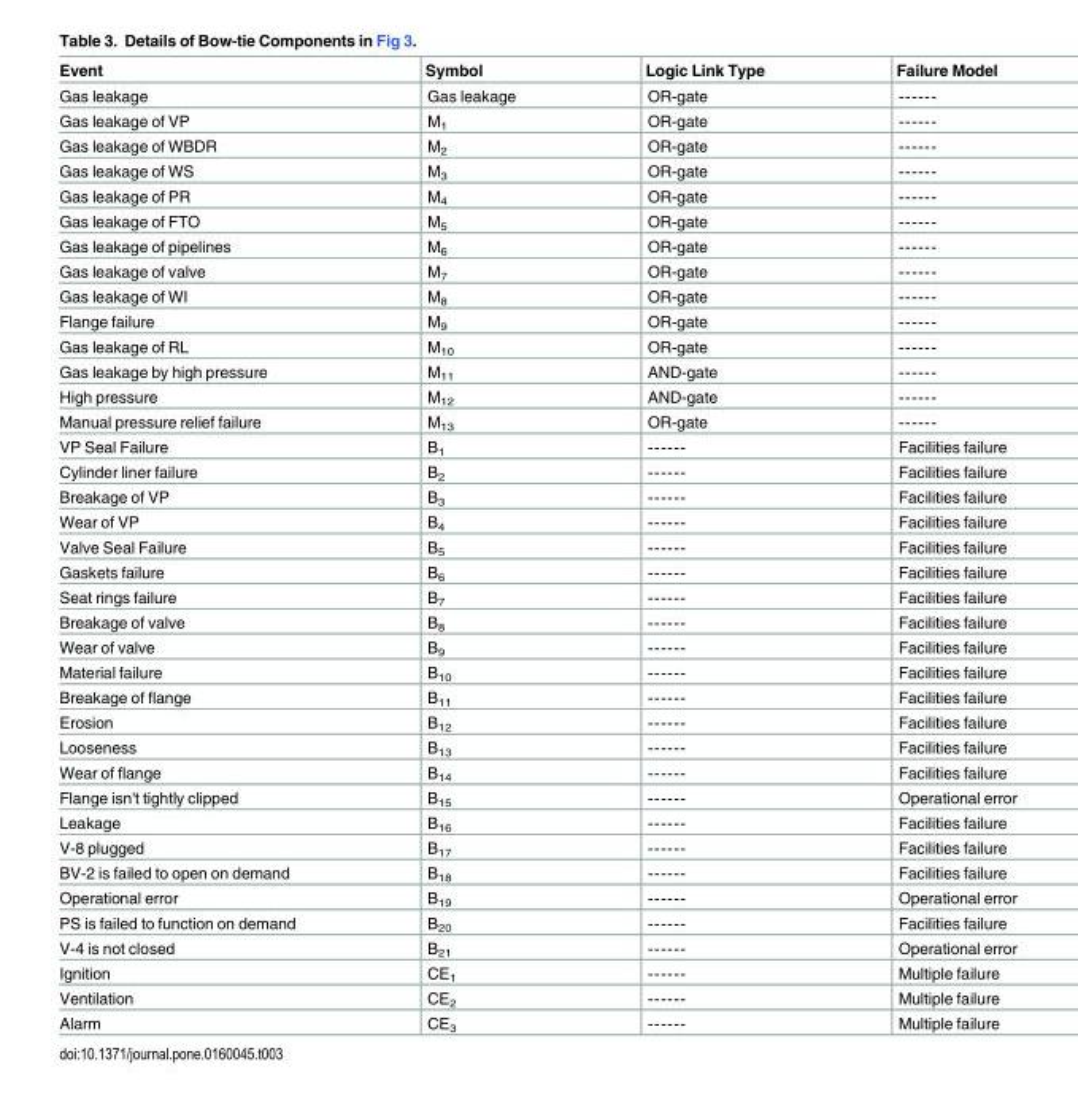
<table><thead><tr><td>Event</td><td>Symbol</td><td>Logic Link Type</td><td>Failure Model</td></tr></thead><tbody><tr><td>Gas leakage</td><td>Gas leakage</td><td>OR-gate</td><td>------</td></tr><tr><td>Gas leakage of VP</td><td>M<sub>1</sub></td><td>OR-gate</td><td>------</td></tr><tr><td>Gas leakage of WBDR</td><td>M<sub>2</sub></td><td>OR-gate</td><td>------</td></tr><tr><td>Gas leakage of WS</td><td>M<sub>3</sub></td><td>OR-gate</td><td>------</td></tr><tr><td>Gas leakage of PR</td><td>M<sub>4</sub></td><td>OR-gate</td><td>------</td></tr><tr><td>Gas leakage of FTO</td><td>M<sub>5</sub></td><td>OR-gate</td><td>------</td></tr><tr><td>Gas leakage of pipelines</td><td>M<sub>6</sub></td><td>OR-gate</td><td>------</td></tr><tr><td>Gas leakage of valve</td><td>M<sub>7</sub></td><td>OR-gate</td><td>------</td></tr><tr><td>Gas leakage of WI</td><td>M<sub>8</sub></td><td>OR-gate</td><td>------</td></tr><tr><td>Flange failure</td><td>M<sub>9</sub></td><td>OR-gate</td><td>------</td></tr><tr><td>Gas leakage of RL</td><td>M<sub>10</sub></td><td>OR-gate</td><td>------</td></tr><tr><td>Gas leakage by high pressure</td><td>M<sub>11</sub></td><td>AND-gate</td><td>------</td></tr><tr><td>High pressure</td><td>M<sub>12</sub></td><td>AND-gate</td><td>------</td></tr><tr><td>Manual pressure relief failure</td><td>M<sub>13</sub></td><td>OR-gate</td><td>------</td></tr><tr><td>VP Seal Failure</td><td>B<sub>1</sub></td><td>------</td><td>Facilities failure</td></tr><tr><td>Cylinder liner failure</td><td>B<sub>2</sub></td><td>------</td><td>Facilities failure</td></tr><tr><td>Breakage of VP</td><td>B<sub>3</sub></td><td>------</td><td>Facilities failure</td></tr><tr><td>Wear of VP</td><td>B<sub>4</sub></td><td>------</td><td>Facilities failure</td></tr><tr><td>Valve Seal Failure</td><td>B<sub>5</sub></td><td>------</td><td>Facilities failure</td></tr><tr><td>Gaskets failure</td><td>B<sub>6</sub></td><td>------</td><td>Facilities failure</td></tr><tr><td>Seat rings failure</td><td>B<sub>7</sub></td><td>------</td><td>Facilities failure</td></tr><tr><td>Breakage of valve</td><td>B<sub>8</sub></td><td>------</td><td>Facilities failure</td></tr><tr><td>Wear of valve</td><td>B<sub>9</sub></td><td>------</td><td>Facilities failure</td></tr><tr><td>Material failure</td><td>B<sub>10</sub></td><td>------</td><td>Facilities failure</td></tr><tr><td>Breakage of flange</td><td>B<sub>11</sub></td><td>------</td><td>Facilities failure</td></tr><tr><td>Erosion</td><td>B<sub>12</sub></td><td>------</td><td>Facilities failure</td></tr><tr><td>Looseness</td><td>B<sub>13</sub></td><td>------</td><td>Facilities failure</td></tr><tr><td>Wear of flange</td><td>B<sub>14</sub></td><td>------</td><td>Facilities failure</td></tr><tr><td>Flange isn&#x27;t tightly clipped</td><td>B<sub>15</sub></td><td>------</td><td>Operational error</td></tr><tr><td>Leakage</td><td>B<sub>16</sub></td><td>------</td><td>Facilities failure</td></tr><tr><td>V-8 plugged</td><td>B<sub>17</sub></td><td>------</td><td>Facilities failure</td></tr><tr><td>BV-2 is failed to open on demand</td><td>B<sub>18</sub></td><td>------</td><td>Facilities failure</td></tr><tr><td>Operational error</td><td>B<sub>19</sub></td><td>------</td><td>Operational error</td></tr><tr><td>PS is failed to function on demand</td><td>B<sub>20</sub></td><td>------</td><td>Facilities failure</td></tr><tr><td>V-4 is not closed</td><td>B<sub>21</sub></td><td>------</td><td>Operational error</td></tr><tr><td>Ignition</td><td>CE<sub>1</sub></td><td>------</td><td>Multiple failure</td></tr><tr><td>Ventilation</td><td>CE<sub>2</sub></td><td>------</td><td>Multiple failure</td></tr><tr><td>Alarm</td><td>CE<sub>3</sub></td><td>------</td><td>Multiple failure</td></tr></tbody></table>